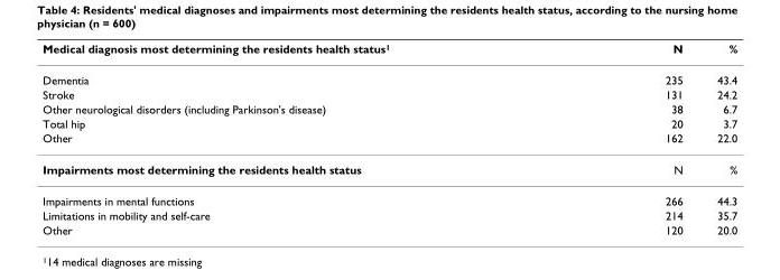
<table><thead><tr><td>Medical diagnosis most determining the residents health status1</td><td>N</td><td>%</td></tr></thead><tbody><tr><td>Dementia</td><td>235</td><td>43.4</td></tr><tr><td>Stroke</td><td>131</td><td>24.2</td></tr><tr><td>Other neurological disorders (including Parkinson&#x27;s disease)</td><td>38</td><td>6.7</td></tr><tr><td>Total hip</td><td>20</td><td>3.7</td></tr><tr><td>Other</td><td>162</td><td>22.0</td></tr><tr><td>Impairments most determining the residents health status</td><td>N</td><td>%</td></tr><tr><td>Impairments in mental functions</td><td>266</td><td>44.3</td></tr><tr><td>Limitations in mobility and self-care</td><td>214</td><td>35.7</td></tr><tr><td>Other</td><td>120</td><td>20.0</td></tr></tbody></table>